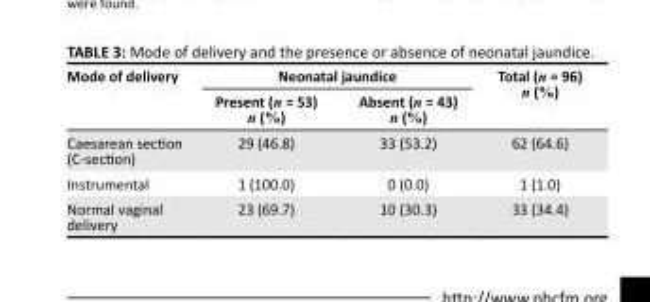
<table><thead><tr><td rowspan="2">Mode of delivery</td><td colspan="2">Neonatal jaundice</td><td rowspan="2">Total (n = 96) n (%)</td></tr><tr><td>Present (n = 53) n (%)</td><td>Absent (n = 43) n (%)</td></tr></thead><tbody><tr><td>Caesarean section (C-section)</td><td>29 (46.8)</td><td>33 (53.2)</td><td>62 (64.6)</td></tr><tr><td>Instrumental</td><td>1 (100.0)</td><td>0 (0.0)</td><td>1 (1.0)</td></tr><tr><td>Normal vaginal delivery</td><td>23 (69.7)</td><td>10 (30.3)</td><td>33 (34.4)</td></tr></tbody></table>